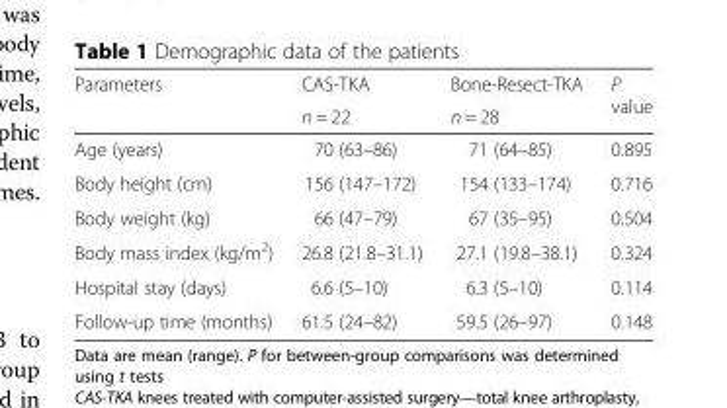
<table><thead><tr><td rowspan="2">Parameters</td><td rowspan="2">CAS-TKA n = 22</td><td rowspan="2">Bone-Resect-TKA n = 28</td><td rowspan="2">P value</td></tr><tr></tr></thead><tbody><tr><td>Age (years)</td><td>70 (63–86)</td><td>71 (64–85)</td><td>0.895</td></tr><tr><td>Body height (cm)</td><td>156 (147–172)</td><td>154 (133–174)</td><td>0.716</td></tr><tr><td>Body weight (kg)</td><td>66 (47–79)</td><td>67 (35–95)</td><td>0.504</td></tr><tr><td>Body mass index (kg/m<sup>2</sup>)</td><td>26.8 (21.8–31.1)</td><td>27.1 (19.8–38.1)</td><td>0.324</td></tr><tr><td>Hospital stay (days)</td><td>6.6 (5–10)</td><td>6.3 (5–10)</td><td>0.114</td></tr><tr><td>Follow-up time (months)</td><td>61.5 (24–82)</td><td>59.5 (26–97)</td><td>0.148</td></tr></tbody></table>